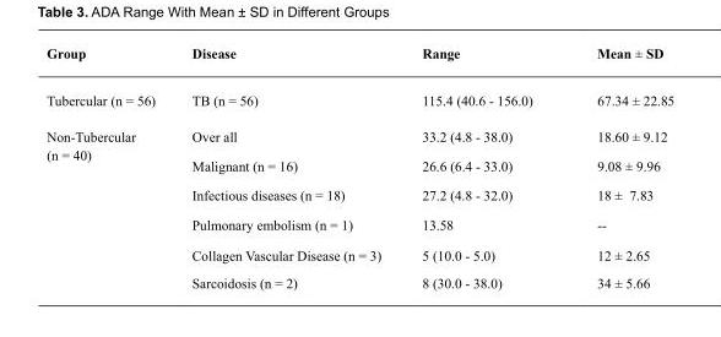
<table><thead><tr><td>Group</td><td>Disease</td><td>Range</td><td>Mean ± SD</td></tr></thead><tbody><tr><td>Tubercular (n = 56)</td><td>TB (n = 56)</td><td>115.4 (40.6 - 156.0)</td><td>67.34 ± 22.85</td></tr><tr><td rowspan="6">Non-Tubercular (n = 40)</td><td>Over all</td><td>33.2 (4.8 - 38.0)</td><td>18.60 ± 9.12</td></tr><tr><td>Malignant (n = 16)</td><td>26.6 (6.4 - 33.0)</td><td>9.08 ± 9.96</td></tr><tr><td>Infectious diseases (n = 18)</td><td>27.2 (4.8 - 32.0)</td><td>18 ± 7.83</td></tr><tr><td>Pulmonary embolism (n = 1)</td><td>13.58</td><td>--</td></tr><tr><td>Collagen Vascular Disease (n = 3)</td><td>5 (10.0 - 5.0)</td><td>12 ± 2.65</td></tr><tr><td>Sarcoidosis (n = 2)</td><td>8 (30.0 - 38.0)</td><td>34 ± 5.66</td></tr></tbody></table>